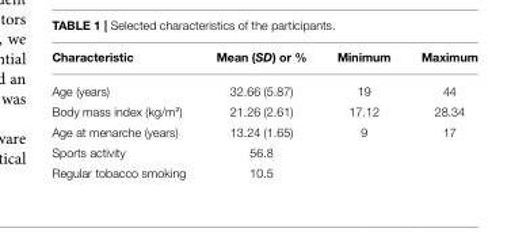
<table><thead><tr><td>Characteristic</td><td>Mean (SD) or %</td><td>Minimum</td><td>Maximum</td></tr></thead><tbody><tr><td>Age (years)</td><td>32.66 (5.87)</td><td>19</td><td>44</td></tr><tr><td>Body mass index (kg/m²)</td><td>21.26 (2.61)</td><td>17.12</td><td>28.34</td></tr><tr><td>Age at menarche (years)</td><td>13.24 (1.65)</td><td>9</td><td>17</td></tr><tr><td>Sports activity</td><td>56.8</td><td></td><td></td></tr><tr><td>Regular tobacco smoking</td><td>10.5</td><td></td><td></td></tr></tbody></table>